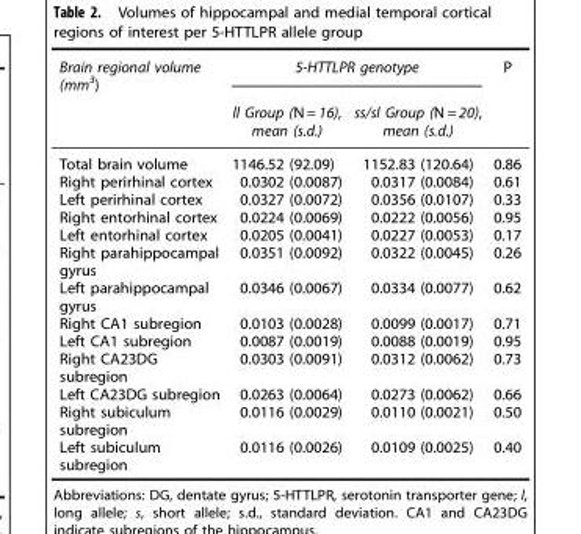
<table><thead><tr><td rowspan="2">Brain regional volume (mm<sup>3</sup>)</td><td colspan="2">5-HTTLPR genotype</td><td rowspan="2">P</td></tr><tr><td>ll Group (N = 16), mean (s.d.)</td><td>ss/sl Group (N = 20), mean (s.d.)</td></tr></thead><tbody><tr><td>Total brain volume</td><td>1146.52 (92.09)</td><td>1152.83 (120.64)</td><td>0.86</td></tr><tr><td>Right perirhinal cortex</td><td>0.0302 (0.0087)</td><td>0.0317 (0.0084)</td><td>0.61</td></tr><tr><td>Left perirhinal cortex</td><td>0.0327 (0.0072)</td><td>0.0356 (0.0107)</td><td>0.33</td></tr><tr><td>Right entorhinal cortex</td><td>0.0224 (0.0069)</td><td>0.0222 (0.0056)</td><td>0.95</td></tr><tr><td>Left entorhinal cortex</td><td>0.0205 (0.0041)</td><td>0.0227 (0.0053)</td><td>0.17</td></tr><tr><td>Right parahippocampal gyrus</td><td>0.0351 (0.0092)</td><td>0.0322 (0.0045)</td><td>0.26</td></tr><tr><td>Left parahippocampal gyrus</td><td>0.0346 (0.0067)</td><td>0.0334 (0.0077)</td><td>0.62</td></tr><tr><td>Right CA1 subregion</td><td>0.0103 (0.0028)</td><td>0.0099 (0.0017)</td><td>0.71</td></tr><tr><td>Left CA1 subregion</td><td>0.0087 (0.0019)</td><td>0.0088 (0.0019)</td><td>0.95</td></tr><tr><td>Right CA23DG subregion</td><td>0.0303 (0.0091)</td><td>0.0312 (0.0062)</td><td>0.73</td></tr><tr><td>Left CA23DG subregion</td><td>0.0263 (0.0064)</td><td>0.0273 (0.0062)</td><td>0.66</td></tr><tr><td>Right subiculum subregion</td><td>0.0116 (0.0029)</td><td>0.0110 (0.0021)</td><td>0.50</td></tr><tr><td>Left subiculum subregion</td><td>0.0116 (0.0026)</td><td>0.0109 (0.0025)</td><td>0.40</td></tr></tbody></table>